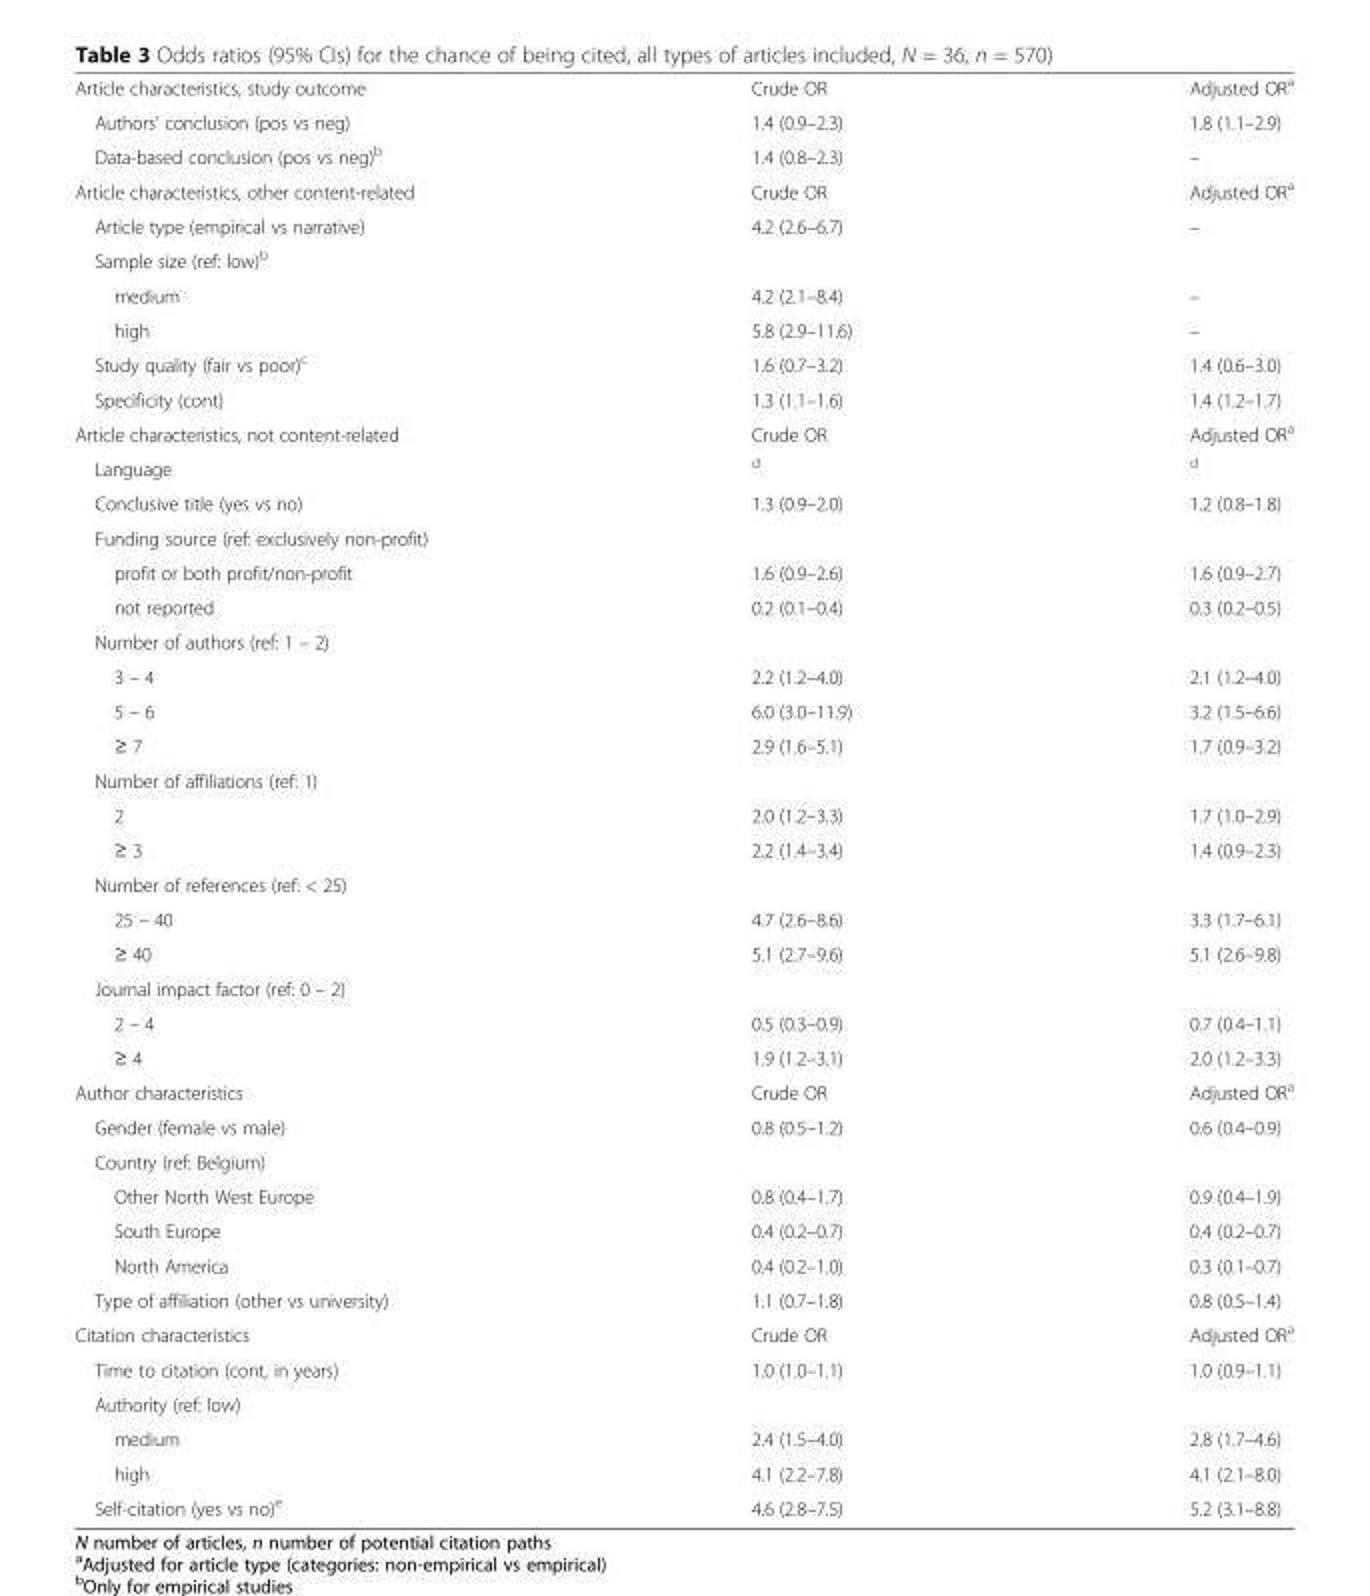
<table><tbody><tr><td>Article characteristics, study outcome</td><td>Crude OR</td><td>Adjusted OR<sup>a</sup></td></tr><tr><td>Authors’ conclusion (pos vs neg)</td><td>1.4 (0.9–2.3)</td><td>1.8 (1.1–2.9)</td></tr><tr><td>Data-based conclusion (pos vs neg)<sup>b</sup></td><td>1.4 (0.8–2.3)</td><td>–</td></tr><tr><td>Article characteristics, other content-related</td><td>Crude OR</td><td>Adjusted OR<sup>a</sup></td></tr><tr><td>Article type (empirical vs narrative)</td><td>4.2 (2.6–6.7)</td><td>–</td></tr><tr><td colspan="3">Sample size (ref: low)<sup>b</sup></td></tr><tr><td>medium</td><td>4.2 (2.1–8.4)</td><td>–</td></tr><tr><td>high</td><td>5.8 (2.9–11.6)</td><td>–</td></tr><tr><td>Study quality (fair vs poor)<sup>c</sup></td><td>1.6 (0.7–3.2)</td><td>1.4 (0.6–3.0)</td></tr><tr><td>Specificity (cont)</td><td>1.3 (1.1–1.6)</td><td>1.4 (1.2–1.7)</td></tr><tr><td>Article characteristics, not content-related</td><td>Crude OR</td><td>Adjusted OR<sup>a</sup></td></tr><tr><td>Language</td><td><sup>d</sup></td><td><sup>d</sup></td></tr><tr><td>Conclusive title (yes vs no)</td><td>1.3 (0.9–2.0)</td><td>1.2 (0.8–1.8)</td></tr><tr><td colspan="3">Funding source (ref: exclusively non-profit)</td></tr><tr><td>profit or both profit/non-profit</td><td>1.6 (0.9–2.6)</td><td>1.6 (0.9–2.7)</td></tr><tr><td>not reported</td><td>0.2 (0.1–0.4)</td><td>0.3 (0.2–0.5)</td></tr><tr><td colspan="3">Number of authors (ref: 1 – 2)</td></tr><tr><td>3 – 4</td><td>2.2 (1.2–4.0)</td><td>2.1 (1.2–4.0)</td></tr><tr><td>5 – 6</td><td>6.0 (3.0–11.9)</td><td>3.2 (1.5–6.6)</td></tr><tr><td>≥ 7</td><td>2.9 (1.6–5.1)</td><td>1.7 (0.9–3.2)</td></tr><tr><td colspan="3">Number of affiliations (ref: 1)</td></tr><tr><td>2</td><td>2.0 (1.2–3.3)</td><td>1.7 (1.0–2.9)</td></tr><tr><td>≥ 3</td><td>2.2 (1.4–3.4)</td><td>1.4 (0.9–2.3)</td></tr><tr><td colspan="3">Number of references (ref: &lt; 25)</td></tr><tr><td>25 – 40</td><td>4.7 (2.6–8.6)</td><td>3.3 (1.7–6.1)</td></tr><tr><td>≥ 40</td><td>5.1 (2.7–9.6)</td><td>5.1 (2.6–9.8)</td></tr><tr><td colspan="3">Journal impact factor (ref: 0 – 2)</td></tr><tr><td>2 – 4</td><td>0.5 (0.3–0.9)</td><td>0.7 (0.4–1.1)</td></tr><tr><td>≥ 4</td><td>1.9 (1.2–3.1)</td><td>2.0 (1.2–3.3)</td></tr><tr><td>Author characteristics</td><td>Crude OR</td><td>Adjusted OR<sup>a</sup></td></tr><tr><td>Gender (female vs male)</td><td>0.8 (0.5–1.2)</td><td>0.6 (0.4–0.9)</td></tr><tr><td colspan="3">Country (ref: Belgium)</td></tr><tr><td>Other North West Europe</td><td>0.8 (0.4–1.7)</td><td>0.9 (0.4–1.9)</td></tr><tr><td>South Europe</td><td>0.4 (0.2–0.7)</td><td>0.4 (0.2–0.7)</td></tr><tr><td>North America</td><td>0.4 (0.2–1.0)</td><td>0.3 (0.1–0.7)</td></tr><tr><td>Type of affiliation (other vs university)</td><td>1.1 (0.7–1.8)</td><td>0.8 (0.5–1.4)</td></tr><tr><td>Citation characteristics</td><td>Crude OR</td><td>Adjusted OR<sup>a</sup></td></tr><tr><td>Time to citation (cont, in years)</td><td>1.0 (1.0–1.1)</td><td>1.0 (0.9–1.1)</td></tr><tr><td colspan="3">Authority (ref: low)</td></tr><tr><td>medium</td><td>2.4 (1.5–4.0)</td><td>2.8 (1.7–4.6)</td></tr><tr><td>high</td><td>4.1 (2.2–7.8)</td><td>4.1 (2.1–8.0)</td></tr><tr><td>Self-citation (yes vs no)<sup>e</sup></td><td>4.6 (2.8–7.5)</td><td>5.2 (3.1–8.8)</td></tr></tbody></table>